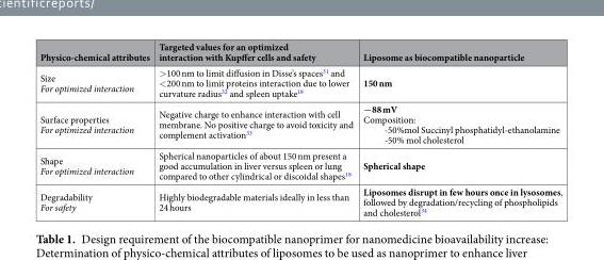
<table><thead><tr><td>Physico-chemical attributes</td><td>Targeted values for an optimized interaction with Kupffer cells and safety</td><td>Liposome as biocompatible nanoparticle</td></tr></thead><tbody><tr><td>Size For optimized interaction</td><td>&gt;100 nm to limit diffusion in Disse’s spaces<sup>31</sup> and &lt;200 nm to limit proteins interaction due to lower curvature radius<sup>32</sup> and spleen uptake<sup>18</sup></td><td>150 nm</td></tr><tr><td>Surface properties For optimized interaction</td><td>Negative charge to enhance interaction with cell membrane. No positive charge to avoid toxicity and complement activation<sup>33</sup></td><td>−88 mV Composition: -50%mol Succinyl phosphatidyl-ethanolamine -50% mol cholesterol</td></tr><tr><td>Shape For optimized interaction</td><td>Spherical nanoparticles of about 150 nm present a good accumulation in liver versus spleen or lung compared to other cylindrical or discoidal shapes<sup>18</sup></td><td>Spherical shape</td></tr><tr><td>Degradability For safety</td><td>Highly biodegradable materials ideally in less than 24 hours</td><td>Liposomes disrupt in few hours once in lysosomes, followed by degradation/recycling of phospholipids and cholesterol<sup>34</sup></td></tr></tbody></table>